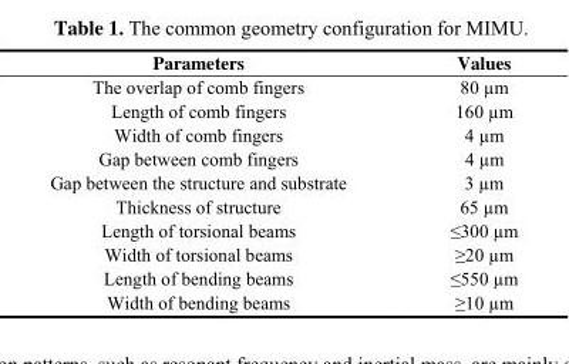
<table><thead><tr><td>Parameters</td><td>Values</td></tr></thead><tbody><tr><td>The overlap of comb fingers</td><td>80 µm</td></tr><tr><td>Length of comb fingers</td><td>160 µm</td></tr><tr><td>Width of comb fingers</td><td>4 µm</td></tr><tr><td>Gap between comb fingers</td><td>4 µm</td></tr><tr><td>Gap between the structure and substrate</td><td>3 µm</td></tr><tr><td>Thickness of structure</td><td>65 µm</td></tr><tr><td>Length of torsional beams</td><td>≤300 µm</td></tr><tr><td>Width of torsional beams</td><td>≥20 µm</td></tr><tr><td>Length of bending beams</td><td>≤550 µm</td></tr><tr><td>Width of bending beams</td><td>≥10 µm</td></tr></tbody></table>